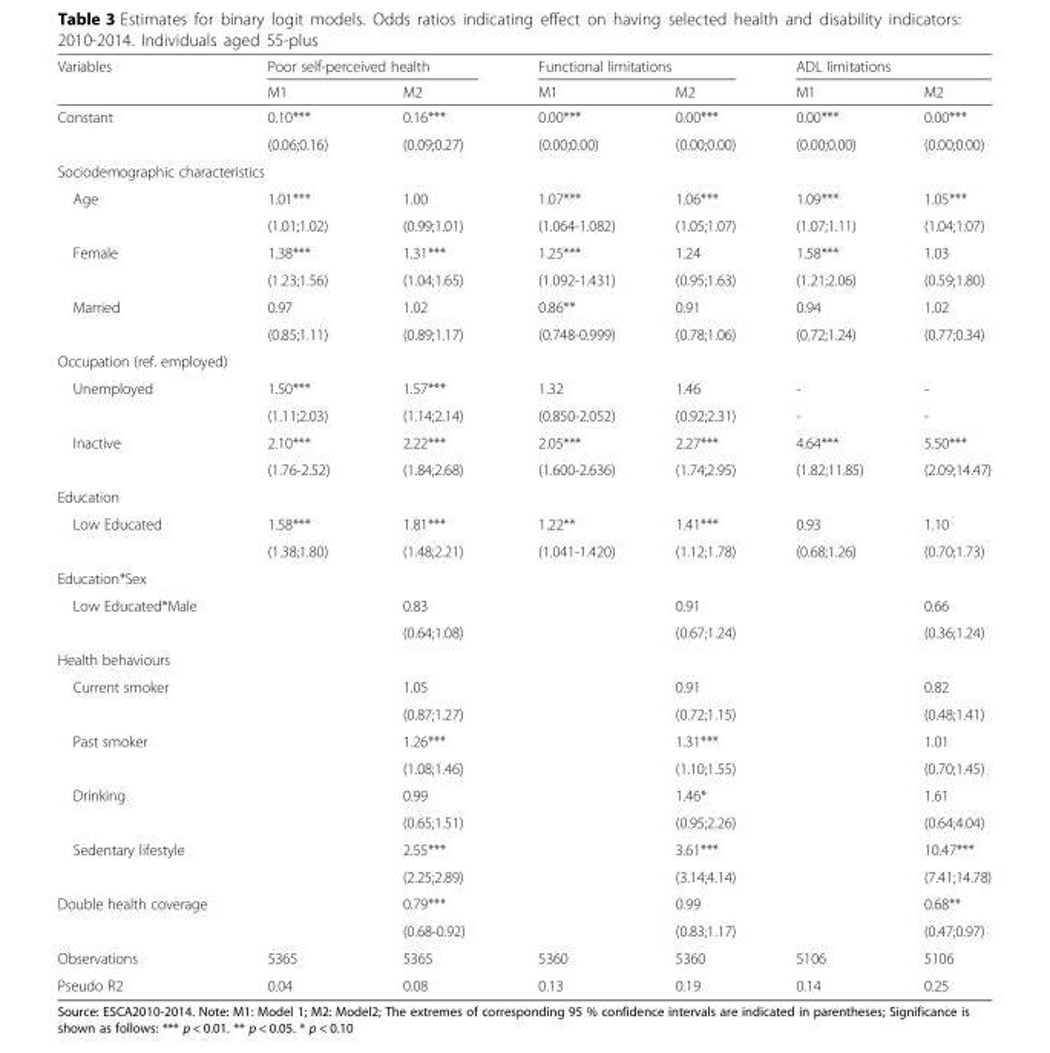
<table><thead><tr><td rowspan="2">Variables</td><td colspan="2">Poor self-perceived health</td><td colspan="2">Functional limitations</td><td colspan="2">ADL limitations</td></tr><tr><td>M1</td><td>M2</td><td>M1</td><td>M2</td><td>M1</td><td>M2</td></tr></thead><tbody><tr><td rowspan="2">Constant</td><td>0.10***</td><td>0.16***</td><td>0.00***</td><td>0.00***</td><td>0.00***</td><td>0.00***</td></tr><tr><td>(0.06;0.16)</td><td>(0.09;0.27)</td><td>(0.00;0.00)</td><td>(0.00;0.00)</td><td>(0.00;0.00)</td><td>(0.00;0.00)</td></tr><tr><td colspan="7">Sociodemographic characteristics</td></tr><tr><td rowspan="2">Age</td><td>1.01***</td><td>1.00</td><td>1.07***</td><td>1.06***</td><td>1.09***</td><td>1.05***</td></tr><tr><td>(1.01;1.02)</td><td>(0.99;1.01)</td><td>(1.064-1.082)</td><td>(1.05;1.07)</td><td>(1.07;1.11)</td><td>(1.04;1.07)</td></tr><tr><td rowspan="2">Female</td><td>1.38***</td><td>1.31***</td><td>1.25***</td><td>1.24</td><td>1.58***</td><td>1.03</td></tr><tr><td>(1.23;1.56)</td><td>(1.04;1.65)</td><td>(1.092-1.431)</td><td>(0.95;1.63)</td><td>(1.21;2.06)</td><td>(0.59;1.80)</td></tr><tr><td rowspan="2">Married</td><td>0.97</td><td>1.02</td><td>0.86**</td><td>0.91</td><td>0.94</td><td>1.02</td></tr><tr><td>(0.85;1.11)</td><td>(0.89;1.17)</td><td>(0.748-0.999)</td><td>(0.78;1.06)</td><td>(0.72;1.24)</td><td>(0.77;0.34)</td></tr><tr><td colspan="7">Occupation (ref. employed)</td></tr><tr><td rowspan="2">Unemployed</td><td>1.50***</td><td>1.57***</td><td>1.32</td><td>1.46</td><td>-</td><td>-</td></tr><tr><td>(1.11;2.03)</td><td>(1.14;2.14)</td><td>(0.850-2.052)</td><td>(0.92;2.31)</td><td>-</td><td>-</td></tr><tr><td rowspan="2">Inactive</td><td>2.10***</td><td>2.22***</td><td>2.05***</td><td>2.27***</td><td>4.64***</td><td>5.50***</td></tr><tr><td>(1.76-2.52)</td><td>(1.84;2.68)</td><td>(1.600-2.636)</td><td>(1.74;2.95)</td><td>(1.82;11.85)</td><td>(2.09;14.47)</td></tr><tr><td colspan="7">Education</td></tr><tr><td rowspan="2">Low Educated</td><td>1.58***</td><td>1.81***</td><td>1.22**</td><td>1.41***</td><td>0.93</td><td>1.10</td></tr><tr><td>(1.38;1.80)</td><td>(1.48;2.21)</td><td>(1.041-1.420)</td><td>(1.12;1.78)</td><td>(0.68;1.26)</td><td>(0.70;1.73)</td></tr><tr><td colspan="7">Education*Sex</td></tr><tr><td rowspan="2">Low Educated*Male</td><td></td><td>0.83</td><td></td><td>0.91</td><td></td><td>0.66</td></tr><tr><td></td><td>(0.64;1.08)</td><td></td><td>(0.67;1.24)</td><td></td><td>(0.36;1.24)</td></tr><tr><td colspan="7">Health behaviours</td></tr><tr><td rowspan="2">Current smoker</td><td></td><td>1.05</td><td></td><td>0.91</td><td></td><td>0.82</td></tr><tr><td></td><td>(0.87;1.27)</td><td></td><td>(0.72;1.15)</td><td></td><td>(0.48;1.41)</td></tr><tr><td rowspan="2">Past smoker</td><td></td><td>1.26***</td><td></td><td>1.31***</td><td></td><td>1.01</td></tr><tr><td></td><td>(1.08;1.46)</td><td></td><td>(1.10;1.55)</td><td></td><td>(0.70;1.45)</td></tr><tr><td rowspan="2">Drinking</td><td></td><td>0.99</td><td></td><td>1.46*</td><td></td><td>1.61</td></tr><tr><td></td><td>(0.65;1.51)</td><td></td><td>(0.95;2.26)</td><td></td><td>(0.64;4.04)</td></tr><tr><td rowspan="2">Sedentary lifestyle</td><td></td><td>2.55***</td><td></td><td>3.61***</td><td></td><td>10.47***</td></tr><tr><td></td><td>(2.25;2.89)</td><td></td><td>(3.14;4.14)</td><td></td><td>(7.41;14.78)</td></tr><tr><td rowspan="2">Double health coverage</td><td></td><td>0.79***</td><td></td><td>0.99</td><td></td><td>0.68**</td></tr><tr><td></td><td>(0.68-0.92)</td><td></td><td>(0.83;1.17)</td><td></td><td>(0.47;0.97)</td></tr><tr><td>Observations</td><td>5365</td><td>5365</td><td>5360</td><td>5360</td><td>5106</td><td>5106</td></tr><tr><td>Pseudo R2</td><td>0.04</td><td>0.08</td><td>0.13</td><td>0.19</td><td>0.14</td><td>0.25</td></tr></tbody></table>